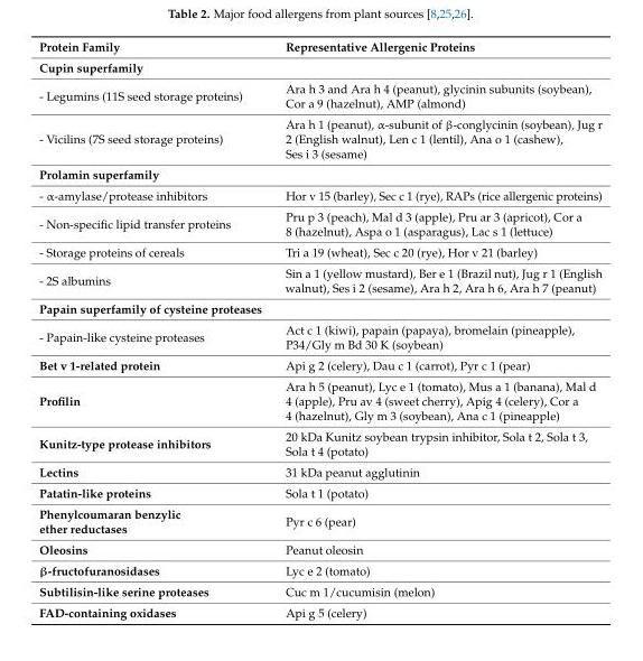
<table><thead><tr><td>Protein Family</td><td>Representative Allergenic Proteins</td></tr></thead><tbody><tr><td colspan="2">Cupin superfamily</td></tr><tr><td>- Legumins (11S seed storage proteins)</td><td>Ara h 3 and Ara h 4 (peanut), glycinin subunits (soybean), Cor a 9 (hazelnut), AMP (almond)</td></tr><tr><td>- Vicilins (7S seed storage proteins)</td><td>Ara h 1 (peanut), α-subunit of β-conglycinin (soybean), Jug r 2 (English walnut), Len c 1 (lentil), Ana o 1 (cashew), Ses i 3 (sesame)</td></tr><tr><td colspan="2">Prolamin superfamily</td></tr><tr><td>- α-amylase/protease inhibitors</td><td>Hor v 15 (barley), Sec c 1 (rye), RAPs (rice allergenic proteins)</td></tr><tr><td>- Non-specific lipid transfer proteins</td><td>Pru p 3 (peach), Mal d 3 (apple), Pru ar 3 (apricot), Cor a 8 (hazelnut), Aspa o 1 (asparagus), Lac s 1 (lettuce)</td></tr><tr><td>- Storage proteins of cereals</td><td>Tri a 19 (wheat), Sec c 20 (rye), Hor v 21 (barley)</td></tr><tr><td>- 2S albumins</td><td>Sin a 1 (yellow mustard), Ber e 1 (Brazil nut), Jug r 1 (English walnut), Ses i 2 (sesame), Ara h 2, Ara h 6, Ara h 7 (peanut)</td></tr><tr><td colspan="2">Papain superfamily of cysteine proteases</td></tr><tr><td>- Papain-like cysteine proteases</td><td>Act c 1 (kiwi), papain (papaya), bromelain (pineapple), P34/Gly m Bd 30 K (soybean)</td></tr><tr><td>Bet v 1-related protein</td><td>Api g 2 (celery), Dau c 1 (carrot), Pyr c 1 (pear)</td></tr><tr><td>Profilin</td><td>Ara h 5 (peanut), Lyc e 1 (tomato), Mus a 1 (banana), Mal d 4 (apple), Pru av 4 (sweet cherry), Apig 4 (celery), Cor a 4 (hazelnut), Gly m 3 (soybean), Ana c 1 (pineapple)</td></tr><tr><td>Kunitz-type protease inhibitors</td><td>20 kDa Kunitz soybean trypsin inhibitor, Sola t 2, Sola t 3, Sola t 4 (potato)</td></tr><tr><td>Lectins</td><td>31 kDa peanut agglutinin</td></tr><tr><td>Patatin-like proteins</td><td>Sola t 1 (potato)</td></tr><tr><td>Phenylcoumaran benzylic ether reductases</td><td>Pyr c 6 (pear)</td></tr><tr><td>Oleosins</td><td>Peanut oleosin</td></tr><tr><td>β-fructofuranosidases</td><td>Lyc e 2 (tomato)</td></tr><tr><td>Subtilisin-like serine proteases</td><td>Cuc m 1/cucumisin (melon)</td></tr><tr><td>FAD-containing oxidases</td><td>Api g 5 (celery)</td></tr></tbody></table>